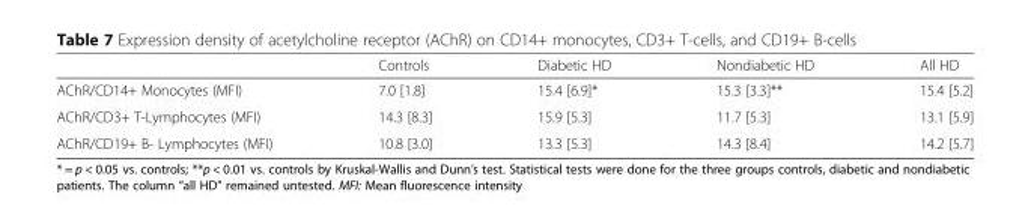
<table><thead><tr><td></td><td>Controls</td><td>Diabetic HD</td><td>Nondiabetic HD</td><td>All HD</td></tr></thead><tbody><tr><td>AChR/CD14+ Monocytes (MFI)</td><td>7.0 [1.8]</td><td>15.4 [6.9]*</td><td>15.3 [3.3]**</td><td>15.4 [5.2]</td></tr><tr><td>AChR/CD3+ T-Lymphocytes (MFI)</td><td>14.3 [8.3]</td><td>15.9 [5.3]</td><td>11.7 [5.3]</td><td>13.1 [5.9]</td></tr><tr><td>AChR/CD19+ B- Lymphocytes (MFI)</td><td>10.8 [3.0]</td><td>13.3 [5.3]</td><td>14.3 [8.4]</td><td>14.2 [5.7]</td></tr></tbody></table>